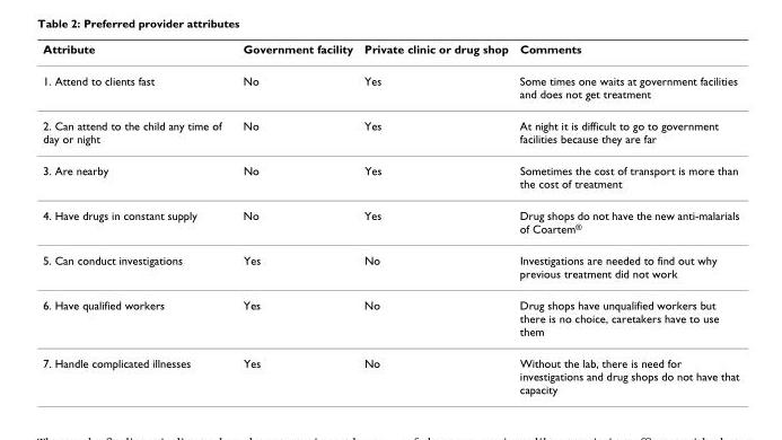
<table><thead><tr><td>Attribute</td><td>Government facility</td><td>Private clinic or drug shop</td><td>Comments</td></tr></thead><tbody><tr><td>1. Attend to clients fast</td><td>No</td><td>Yes</td><td>Some times one waits at government facilities and does not get treatment</td></tr><tr><td>2. Can attend to the child any time of day or night</td><td>No</td><td>Yes</td><td>At night it is difficult to go to government facilities because they are far</td></tr><tr><td>3. Are nearby</td><td>No</td><td>Yes</td><td>Sometimes the cost of transport is more than the cost of treatment</td></tr><tr><td>4. Have drugs in constant supply</td><td>No</td><td>Yes</td><td>Drug shops do not have the new anti-malarials of Coartem<sup>®</sup></td></tr><tr><td>5. Can conduct investigations</td><td>Yes</td><td>No</td><td>Investigations are needed to find out why previous treatment did not work</td></tr><tr><td>6. Have qualified workers</td><td>Yes</td><td>No</td><td>Drug shops have unqualified workers but there is no choice, caretakers have to use them</td></tr><tr><td>7. Handle complicated illnesses</td><td>Yes</td><td>No</td><td>Without the lab, there is need for investigations and drug shops do not have that capacity</td></tr></tbody></table>